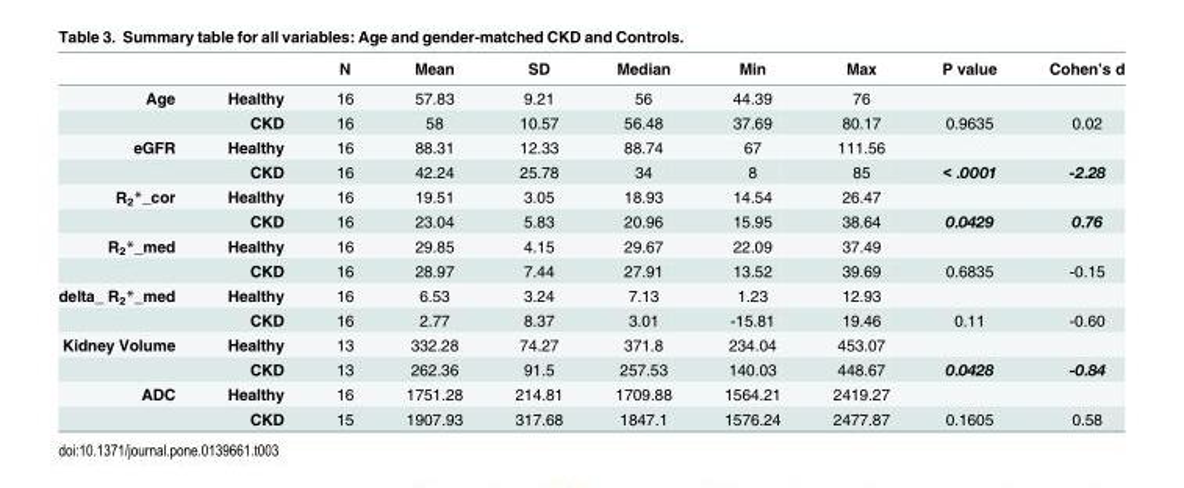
<table><thead><tr><td></td><td></td><td>N</td><td>Mean</td><td>SD</td><td>Median</td><td>Min</td><td>Max</td><td>P value</td><td>Cohen’s d</td></tr></thead><tbody><tr><td rowspan="2">Age</td><td>Healthy</td><td>16</td><td>57.83</td><td>9.21</td><td>56</td><td>44.39</td><td>76</td><td></td><td></td></tr><tr><td>CKD</td><td>16</td><td>58</td><td>10.57</td><td>56.48</td><td>37.69</td><td>80.17</td><td>0.9635</td><td>0.02</td></tr><tr><td rowspan="2">eGFR</td><td>Healthy</td><td>16</td><td>88.31</td><td>12.33</td><td>88.74</td><td>67</td><td>111.56</td><td></td><td></td></tr><tr><td>CKD</td><td>16</td><td>42.24</td><td>25.78</td><td>34</td><td>8</td><td>85</td><td>&lt; .0001</td><td>-2.28</td></tr><tr><td rowspan="2">R<sub>2</sub>*_cor</td><td>Healthy</td><td>16</td><td>19.51</td><td>3.05</td><td>18.93</td><td>14.54</td><td>26.47</td><td></td><td></td></tr><tr><td>CKD</td><td>16</td><td>23.04</td><td>5.83</td><td>20.96</td><td>15.95</td><td>38.64</td><td>0.0429</td><td>0.76</td></tr><tr><td rowspan="2">R<sub>2</sub>*_med</td><td>Healthy</td><td>16</td><td>29.85</td><td>4.15</td><td>29.67</td><td>22.09</td><td>37.49</td><td></td><td></td></tr><tr><td>CKD</td><td>16</td><td>28.97</td><td>7.44</td><td>27.91</td><td>13.52</td><td>39.69</td><td>0.6835</td><td>-0.15</td></tr><tr><td rowspan="2">delta_ R<sub>2</sub>*_med</td><td>Healthy</td><td>16</td><td>6.53</td><td>3.24</td><td>7.13</td><td>1.23</td><td>12.93</td><td></td><td></td></tr><tr><td>CKD</td><td>16</td><td>2.77</td><td>8.37</td><td>3.01</td><td>-15.81</td><td>19.46</td><td>0.11</td><td>-0.60</td></tr><tr><td rowspan="2">Kidney Volume</td><td>Healthy</td><td>13</td><td>332.28</td><td>74.27</td><td>371.8</td><td>234.04</td><td>453.07</td><td></td><td></td></tr><tr><td>CKD</td><td>13</td><td>262.36</td><td>91.5</td><td>257.53</td><td>140.03</td><td>448.67</td><td>0.0428</td><td>-0.84</td></tr><tr><td rowspan="2">ADC</td><td>Healthy</td><td>16</td><td>1751.28</td><td>214.81</td><td>1709.88</td><td>1564.21</td><td>2419.27</td><td></td><td></td></tr><tr><td>CKD</td><td>15</td><td>1907.93</td><td>317.68</td><td>1847.1</td><td>1576.24</td><td>2477.87</td><td>0.1605</td><td>0.58</td></tr></tbody></table>